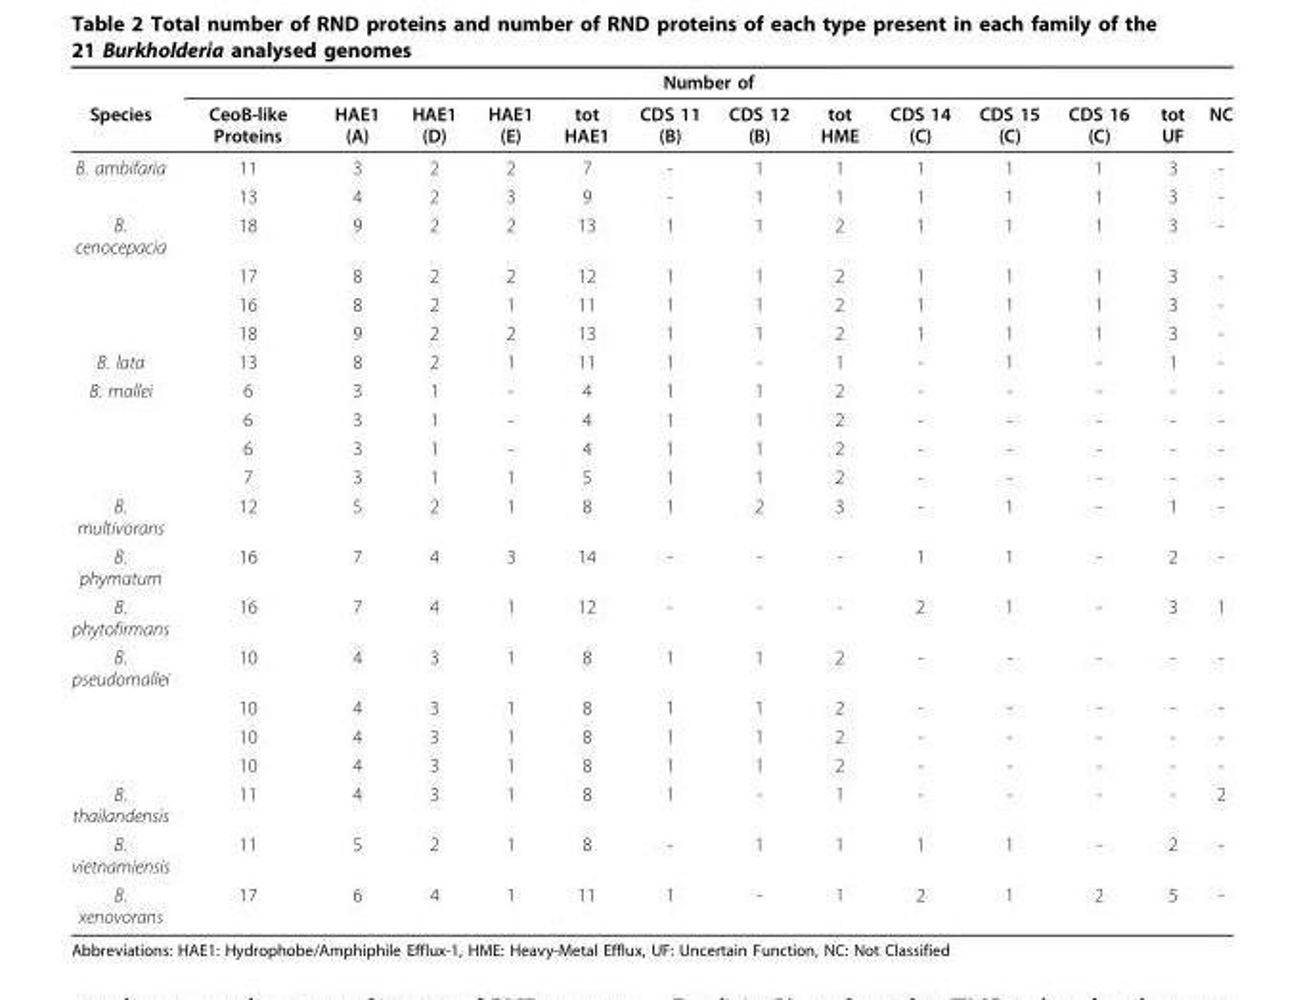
<table><thead><tr><td rowspan="2">Species</td><td colspan="13">Number of</td></tr><tr><td>CeoB-like Proteins</td><td>HAE1 (A)</td><td>HAE1 (D)</td><td>HAE1 (E)</td><td>tot HAE1</td><td>CDS 11 (B)</td><td>CDS 12 (B)</td><td>tot HME</td><td>CDS 14 (C)</td><td>CDS 15 (C)</td><td>CDS 16 (C)</td><td>tot UF</td><td>NC</td></tr></thead><tbody><tr><td rowspan="2">B. ambifaria</td><td>11</td><td>3</td><td>2</td><td>2</td><td>7</td><td>-</td><td>1</td><td>1</td><td>1</td><td>1</td><td>1</td><td>3</td><td>-</td></tr><tr><td>13</td><td>4</td><td>2</td><td>3</td><td>9</td><td>-</td><td>1</td><td>1</td><td>1</td><td>1</td><td>1</td><td>3</td><td>-</td></tr><tr><td rowspan="4">B. cenocepacia</td><td>18</td><td>9</td><td>2</td><td>2</td><td>13</td><td>1</td><td>1</td><td>2</td><td>1</td><td>1</td><td>1</td><td>3</td><td>-</td></tr><tr><td>17</td><td>8</td><td>2</td><td>2</td><td>12</td><td>1</td><td>1</td><td>2</td><td>1</td><td>1</td><td>1</td><td>3</td><td>-</td></tr><tr><td>16</td><td>8</td><td>2</td><td>1</td><td>11</td><td>1</td><td>1</td><td>2</td><td>1</td><td>1</td><td>1</td><td>3</td><td>-</td></tr><tr><td>18</td><td>9</td><td>2</td><td>2</td><td>13</td><td>1</td><td>1</td><td>2</td><td>1</td><td>1</td><td>1</td><td>3</td><td>-</td></tr><tr><td>B. lata</td><td>13</td><td>8</td><td>2</td><td>1</td><td>11</td><td>1</td><td>-</td><td>1</td><td>-</td><td>1</td><td>-</td><td>1</td><td>-</td></tr><tr><td rowspan="4">B. mallei</td><td>6</td><td>3</td><td>1</td><td>-</td><td>4</td><td>1</td><td>1</td><td>2</td><td>-</td><td>-</td><td>-</td><td>-</td><td>-</td></tr><tr><td>6</td><td>3</td><td>1</td><td>-</td><td>4</td><td>1</td><td>1</td><td>2</td><td>-</td><td>-</td><td>-</td><td>-</td><td>-</td></tr><tr><td>6</td><td>3</td><td>1</td><td>-</td><td>4</td><td>1</td><td>1</td><td>2</td><td>-</td><td>-</td><td>-</td><td>-</td><td>-</td></tr><tr><td>7</td><td>3</td><td>1</td><td>1</td><td>5</td><td>1</td><td>1</td><td>2</td><td>-</td><td>-</td><td>-</td><td>-</td><td>-</td></tr><tr><td>B. multivorans</td><td>12</td><td>5</td><td>2</td><td>1</td><td>8</td><td>1</td><td>2</td><td>3</td><td>-</td><td>1</td><td>-</td><td>1</td><td>-</td></tr><tr><td>B. phymatum</td><td>16</td><td>7</td><td>4</td><td>3</td><td>14</td><td>-</td><td>-</td><td>-</td><td>1</td><td>1</td><td>-</td><td>2</td><td>-</td></tr><tr><td>B. phytofirmans</td><td>16</td><td>7</td><td>4</td><td>1</td><td>12</td><td>-</td><td>-</td><td>-</td><td>2</td><td>1</td><td>-</td><td>3</td><td>1</td></tr><tr><td rowspan="4">B. pseudomallei</td><td>10</td><td>4</td><td>3</td><td>1</td><td>8</td><td>1</td><td>1</td><td>2</td><td>-</td><td>-</td><td>-</td><td>-</td><td>-</td></tr><tr><td>10</td><td>4</td><td>3</td><td>1</td><td>8</td><td>1</td><td>1</td><td>2</td><td>-</td><td>-</td><td>-</td><td>-</td><td>-</td></tr><tr><td>10</td><td>4</td><td>3</td><td>1</td><td>8</td><td>1</td><td>1</td><td>2</td><td>-</td><td>-</td><td>-</td><td>-</td><td>-</td></tr><tr><td>10</td><td>4</td><td>3</td><td>1</td><td>8</td><td>1</td><td>1</td><td>2</td><td>-</td><td>-</td><td>-</td><td>-</td><td>-</td></tr><tr><td>B. thailandensis</td><td>11</td><td>4</td><td>3</td><td>1</td><td>8</td><td>1</td><td>-</td><td>1</td><td>-</td><td>-</td><td>-</td><td>-</td><td>2</td></tr><tr><td>B. vietnamiensis</td><td>11</td><td>5</td><td>2</td><td>1</td><td>8</td><td>-</td><td>1</td><td>1</td><td>1</td><td>1</td><td>-</td><td>2</td><td>-</td></tr><tr><td>B. xenovorans</td><td>17</td><td>6</td><td>4</td><td>1</td><td>11</td><td>1</td><td>-</td><td>1</td><td>2</td><td>1</td><td>2</td><td>5</td><td>-</td></tr></tbody></table>